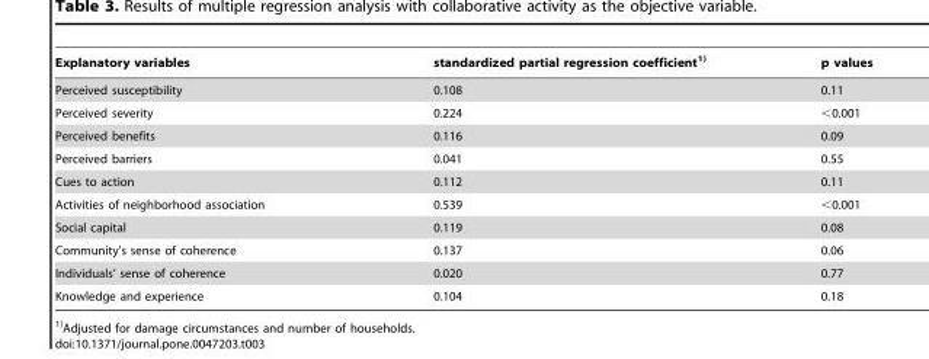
<table><thead><tr><td>Explanatory variables</td><td>standardized partial regression coefficient1)</td><td>p values</td></tr></thead><tbody><tr><td>Perceived susceptibility</td><td>0.108</td><td>0.11</td></tr><tr><td>Perceived severity</td><td>0.224</td><td>&lt;0.001</td></tr><tr><td>Perceived benefits</td><td>0.116</td><td>0.09</td></tr><tr><td>Perceived barriers</td><td>0.041</td><td>0.55</td></tr><tr><td>Cues to action</td><td>0.112</td><td>0.11</td></tr><tr><td>Activities of neighborhood association</td><td>0.539</td><td>&lt;0.001</td></tr><tr><td>Social capital</td><td>0.119</td><td>0.08</td></tr><tr><td>Community’s sense of coherence</td><td>0.137</td><td>0.06</td></tr><tr><td>Individuals’ sense of coherence</td><td>0.020</td><td>0.77</td></tr><tr><td>Knowledge and experience</td><td>0.104</td><td>0.18</td></tr></tbody></table>